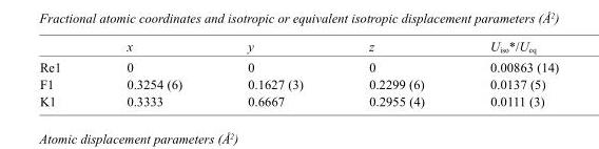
<table><thead><tr><td></td><td>x</td><td>y</td><td>z</td><td>U<sub>iso</sub>*/U<sub>eq</sub></td></tr></thead><tbody><tr><td>Re1</td><td>0</td><td>0</td><td>0</td><td>0.00863 (14)</td></tr><tr><td>F1</td><td>0.3254 (6)</td><td>0.1627 (3)</td><td>0.2299 (6)</td><td>0.0137 (5)</td></tr><tr><td>K1</td><td>0.3333</td><td>0.6667</td><td>0.2955 (4)</td><td>0.0111 (3)</td></tr></tbody></table>